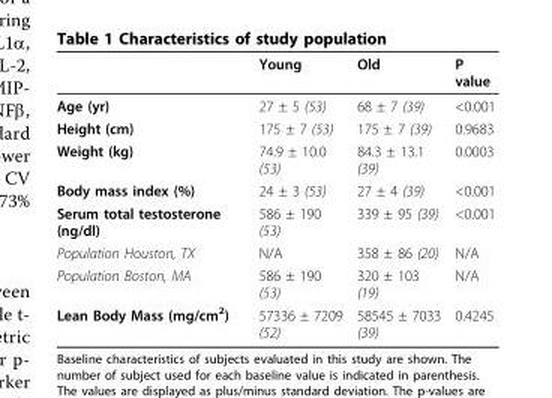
<table><thead><tr><td></td><td>Young</td><td>Old</td><td>P value</td></tr></thead><tbody><tr><td>Age (yr)</td><td>27 ± 5 (53)</td><td>68 ± 7 (39)</td><td>&lt;0.001</td></tr><tr><td>Height (cm)</td><td>175 ± 7 (53)</td><td>175 ± 7 (39)</td><td>0.9683</td></tr><tr><td>Weight (kg)</td><td>74.9 ± 10.0 (53)</td><td>84.3 ± 13.1 (39)</td><td>0.0003</td></tr><tr><td>Body mass index (%)</td><td>24 ± 3 (53)</td><td>27 ± 4 (39)</td><td>&lt;0.001</td></tr><tr><td>Serum total testosterone (ng/dl)</td><td>586 ± 190 (53)</td><td>339 ± 95 (39)</td><td>&lt;0.001</td></tr><tr><td>Population Houston, TX</td><td>N/A</td><td>358 ± 86 (20)</td><td>N/A</td></tr><tr><td>Population Boston, MA</td><td>586 ± 190 (53)</td><td>320 ± 103 (19)</td><td>N/A</td></tr><tr><td>Lean Body Mass (mg/cm<sup>2</sup>)</td><td>57336 ± 7209 (52)</td><td>58545 ± 7033 (39)</td><td>0.4245</td></tr></tbody></table>